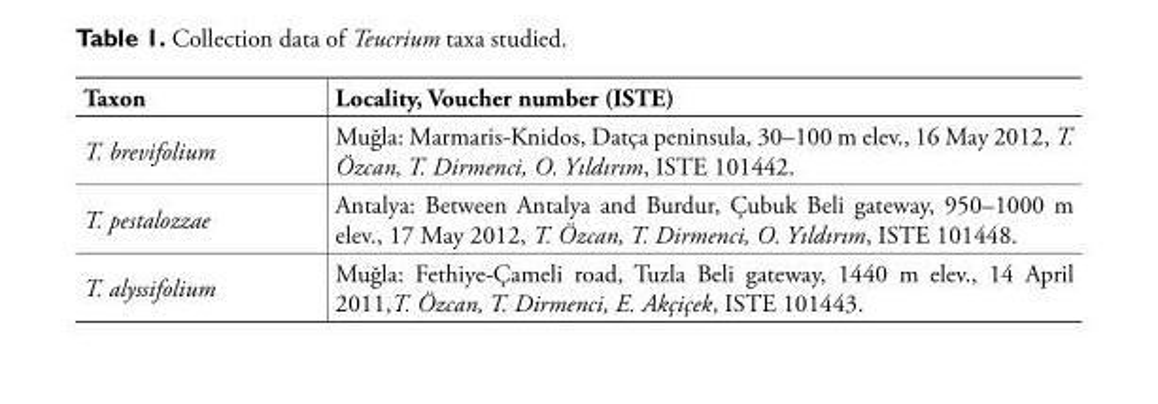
<table><tbody><tr><td>Taxon</td><td>Locality, Voucher number (ISTE)</td></tr><tr><td>T. brevifolium</td><td>Muğla: Marmaris-Knidos, Datça peninsula, 30–100 m elev., 16 May 2012, T. Özcan, T. Dirmenci, O. Yıldırım, ISTE 101442.</td></tr><tr><td>T. pestalozzae</td><td>Antalya: Between Antalya and Burdur, Çubuk Beli gateway, 950–1000 m elev., 17 May 2012, T. Özcan, T. Dirmenci, O. Yıldırım, ISTE 101448.</td></tr><tr><td>T. alyssifolium</td><td>Muğla: Fethiye-Çameli road, Tuzla Beli gateway, 1440 m elev., 14 April 2011,T. Özcan, T. Dirmenci, E. Akçiçek, ISTE 101443.</td></tr></tbody></table>